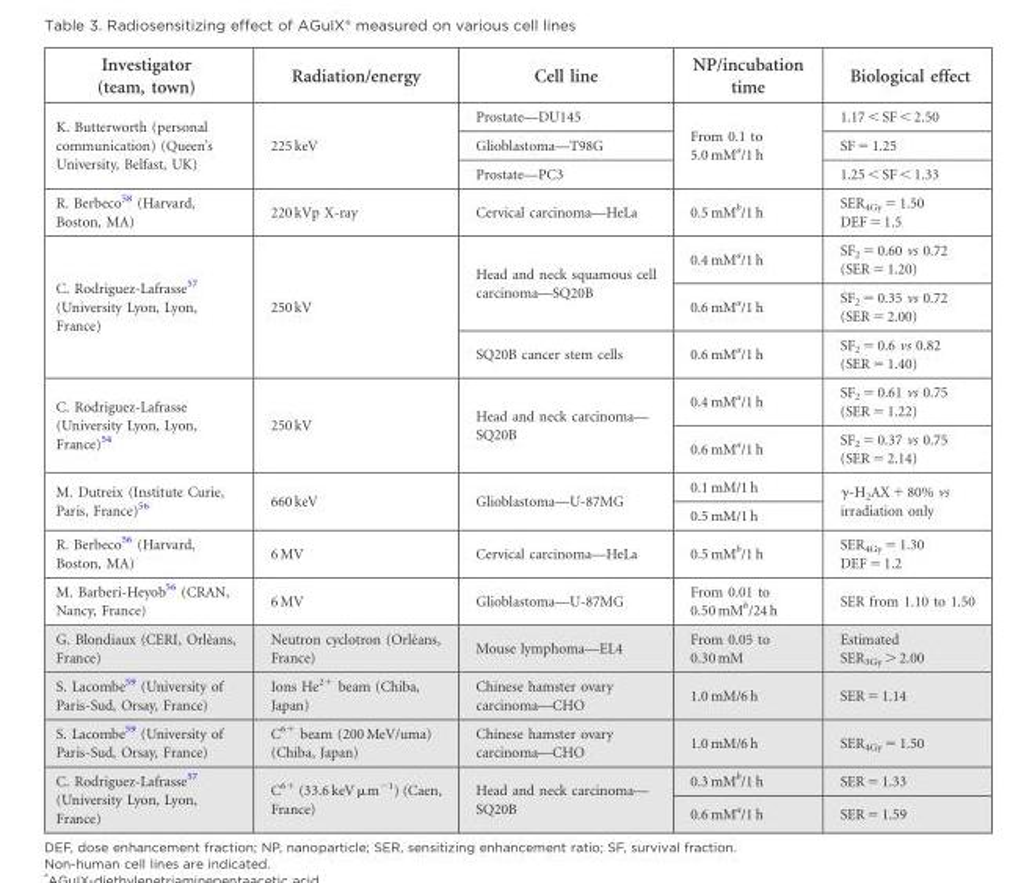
<table><thead><tr><td>Investigator (team, town)</td><td>Radiation/energy</td><td>Cell line</td><td>NP/incubation time</td><td>Biological effect</td></tr></thead><tbody><tr><td rowspan="3">K. Butterworth (personal communication) (Queen’s University, Belfast, UK)</td><td rowspan="3">225 keV</td><td>Prostate—DU145</td><td rowspan="3">From 0.1 to 5.0 mM<sup>a</sup>/1 h</td><td>1.17 &lt; SF &lt; 2.50</td></tr><tr><td>Glioblastoma—T98G</td><td>SF = 1.25</td></tr><tr><td>Prostate—PC3</td><td>1.25 &lt; SF &lt; 1.33</td></tr><tr><td>R. Berbeco<sup>58</sup> (Harvard, Boston, MA)</td><td>220 kVp X-ray</td><td>Cervical carcinoma—HeLa</td><td>0.5 mM<sup>b</sup>/1 h</td><td>SER<sub>4Gy</sub> = 1.50 DEF = 1.5</td></tr><tr><td rowspan="3">C. Rodriguez-Lafrasse<sup>57</sup> (University Lyon, Lyon, France)</td><td rowspan="3">250 kV</td><td rowspan="2">Head and neck squamous cell carcinoma—SQ20B</td><td>0.4 mM<sup>a</sup>/1 h</td><td>SF<sub>2</sub> = 0.60 vs 0.72 (SER = 1.20)</td></tr><tr><td>0.6 mM<sup>a</sup>/1 h</td><td>SF<sub>2</sub> = 0.35 vs 0.72 (SER = 2.00)</td></tr><tr><td>SQ20B cancer stem cells</td><td>0.6 mM<sup>a</sup>/1 h</td><td>SF<sub>2</sub> = 0.6 vs 0.82 (SER = 1.40)</td></tr><tr><td rowspan="2">C. Rodriguez-Lafrasse (University Lyon, Lyon, France)<sup>54</sup></td><td rowspan="2">250 kV</td><td rowspan="2">Head and neck carcinoma— SQ20B</td><td>0.4 mM<sup>a</sup>/1 h</td><td>SF<sub>2</sub> = 0.61 vs 0.75 (SER = 1.22)</td></tr><tr><td>0.6 mM<sup>a</sup>/1 h</td><td>SF<sub>2</sub> = 0.37 vs 0.75 (SER = 2.14)</td></tr><tr><td rowspan="2">M. Dutreix (Institute Curie, Paris, France)<sup>56</sup></td><td rowspan="2">660 keV</td><td rowspan="2">Glioblastoma—U-87MG</td><td>0.1 mM/1 h</td><td rowspan="2">γ-H<sub>2</sub>AX + 80% vs irradiation only</td></tr><tr><td>0.5 mM/1 h</td></tr><tr><td>R. Berbeco<sup>56</sup> (Harvard, Boston, MA)</td><td>6 MV</td><td>Cervical carcinoma—HeLa</td><td>0.5 mM<sup>b</sup>/1 h</td><td>SER<sub>4Gy</sub> = 1.30 DEF = 1.2</td></tr><tr><td>M. Barberi-Heyob<sup>56</sup> (CRAN, Nancy, France)</td><td>6 MV</td><td>Glioblastoma—U-87MG</td><td>From 0.01 to 0.50 mM<sup>b</sup>/24 h</td><td>SER from 1.10 to 1.50</td></tr><tr><td>G. Blondiaux (CERI, Orl´eans, France)</td><td>Neutron cyclotron (Orl´eans, France)</td><td>Mouse lymphoma—EL4</td><td>From 0.05 to 0.30 mM</td><td>Estimated SER<sub>3Gy</sub> &gt; 2.00</td></tr><tr><td>S. Lacombe<sup>59</sup> (University of Paris-Sud, Orsay, France)</td><td>Ions He<sup>2+</sup> beam (Chiba, Japan)</td><td>Chinese hamster ovary carcinoma—CHO</td><td>1.0 mM/6 h</td><td>SER = 1.14</td></tr><tr><td>S. Lacombe<sup>59</sup> (University of Paris-Sud, Orsay, France)</td><td>C<sup>6+</sup> beam (200 MeV/uma) (Chiba, Japan)</td><td>Chinese hamster ovary carcinoma—CHO</td><td>1.0 mM/6 h</td><td>SER<sub>4Gy</sub> = 1.50</td></tr><tr><td rowspan="2">C. Rodriguez-Lafrasse<sup>57</sup> (University Lyon, Lyon, France)</td><td rowspan="2">C<sup>6+</sup> (33.6 keV µm<sup>−1</sup>) (Caen, France)</td><td rowspan="2">Head and neck carcinoma— SQ20B</td><td>0.3 mM<sup>b</sup>/1 h</td><td>SER = 1.33</td></tr><tr><td>0.6 mM<sup>a</sup>/1 h</td><td>SER = 1.59</td></tr></tbody></table>